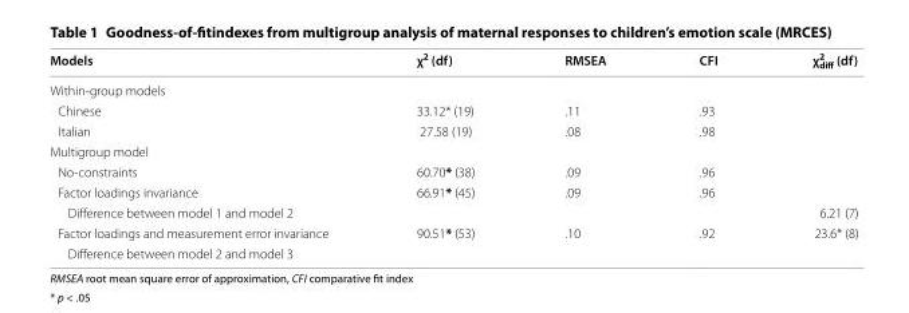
<table><thead><tr><td>Models</td><td>χ<sup>2</sup> (df)</td><td>RMSEA</td><td>CFI</td><td>χ2 diff (df)</td></tr></thead><tbody><tr><td colspan="5">Within-group models</td></tr><tr><td>Chinese</td><td>33.12* (19)</td><td>.11</td><td>.93</td><td></td></tr><tr><td>Italian</td><td>27.58 (19)</td><td>.08</td><td>.98</td><td></td></tr><tr><td colspan="5">Multigroup model</td></tr><tr><td>No-constraints</td><td>60.70* (38)</td><td>.09</td><td>.96</td><td></td></tr><tr><td>Factor loadings invariance</td><td>66.91* (45)</td><td>.09</td><td>.96</td><td></td></tr><tr><td>Difference between model 1 and model 2</td><td></td><td></td><td></td><td>6.21 (7)</td></tr><tr><td>Factor loadings and measurement error invariance</td><td>90.51* (53)</td><td>.10</td><td>.92</td><td>23.6* (8)</td></tr><tr><td>Difference between model 2 and model 3</td><td></td><td></td><td></td><td></td></tr></tbody></table>